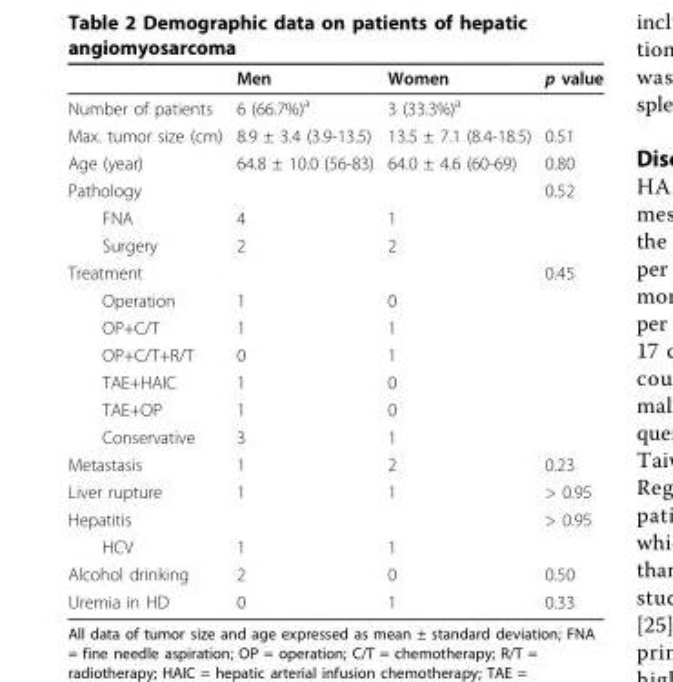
<table><thead><tr><td></td><td>Men</td><td>Women</td><td>p value</td></tr></thead><tbody><tr><td>Number of patients</td><td>6 (66.7%)<sup>a</sup></td><td>3 (33.3%)<sup>a</sup></td><td></td></tr><tr><td>Max. tumor size (cm)</td><td>8.9 ± 3.4 (3.9-13.5)</td><td>13.5 ± 7.1 (8.4-18.5)</td><td>0.51</td></tr><tr><td>Age (year)</td><td>64.8 ± 10.0 (56-83)</td><td>64.0 ± 4.6 (60-69)</td><td>0.80</td></tr><tr><td>Pathology</td><td></td><td></td><td>0.52</td></tr><tr><td>FNA</td><td>4</td><td>1</td><td></td></tr><tr><td>Surgery</td><td>2</td><td>2</td><td></td></tr><tr><td>Treatment</td><td></td><td></td><td>0.45</td></tr><tr><td>Operation</td><td>1</td><td>0</td><td></td></tr><tr><td>OP+C/T</td><td>1</td><td>1</td><td></td></tr><tr><td>OP+C/T+R/T</td><td>0</td><td>1</td><td></td></tr><tr><td>TAE+HAIC</td><td>1</td><td>0</td><td></td></tr><tr><td>TAE+OP</td><td>1</td><td>0</td><td></td></tr><tr><td>Conservative</td><td>3</td><td>1</td><td></td></tr><tr><td>Metastasis</td><td>1</td><td>2</td><td>0.23</td></tr><tr><td>Liver rupture</td><td>1</td><td>1</td><td>&gt; 0.95</td></tr><tr><td>Hepatitis</td><td></td><td></td><td>&gt; 0.95</td></tr><tr><td>HCV</td><td>1</td><td>1</td><td></td></tr><tr><td>Alcohol drinking</td><td>2</td><td>0</td><td>0.50</td></tr><tr><td>Uremia in HD</td><td>0</td><td>1</td><td>0.33</td></tr></tbody></table>